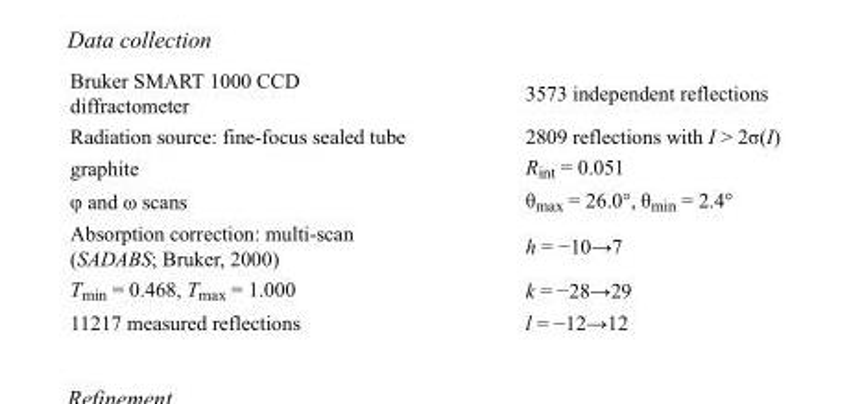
<table><tbody><tr><td>Bruker SMART 1000 CCD diffractometer</td><td>3573 independent reflections</td></tr><tr><td>Radiation source: fine-focus sealed tube</td><td>2809 reflections with I &gt; 2σ(I)</td></tr><tr><td>graphite</td><td>R<sub>int</sub> = 0.051</td></tr><tr><td>φ and ω scans</td><td>θ<sub>max</sub> = 26.0°, θ<sub>min</sub> = 2.4°</td></tr><tr><td>Absorption correction: multi-scan (SADABS; Bruker, 2000)</td><td>h = −10→7</td></tr><tr><td>T<sub>min</sub> = 0.468, T<sub>max</sub> = 1.000</td><td>k = −28→29</td></tr><tr><td>11217 measured reflections</td><td>l = −12→12</td></tr></tbody></table>